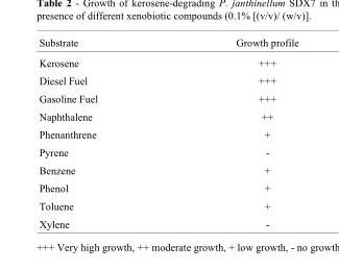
<table><thead><tr><td>Substrate</td><td>Growth profile</td></tr></thead><tbody><tr><td>Kerosene</td><td>+++</td></tr><tr><td>Diesel Fuel</td><td>+++</td></tr><tr><td>Gasoline Fuel</td><td>+++</td></tr><tr><td>Naphthalene</td><td>++</td></tr><tr><td>Phenanthrene</td><td>+</td></tr><tr><td>Pyrene</td><td>-</td></tr><tr><td>Benzene</td><td>+</td></tr><tr><td>Phenol</td><td>+</td></tr><tr><td>Toluene</td><td>+</td></tr><tr><td>Xylene</td><td>-</td></tr></tbody></table>